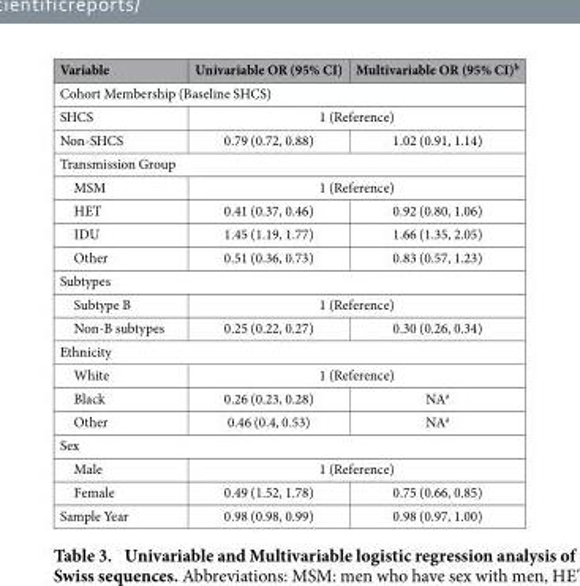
<table><thead><tr><td>Variable</td><td>Univariable OR (95% CI)</td><td>Multivariable OR (95% CI)<sup>b</sup></td></tr></thead><tbody><tr><td colspan="3">Cohort Membership (Baseline SHCS)</td></tr><tr><td>SHCS</td><td colspan="2">1 (Reference)</td></tr><tr><td>Non-SHCS</td><td>0.79 (0.72, 0.88)</td><td>1.02 (0.91, 1.14)</td></tr><tr><td colspan="3">Transmission Group</td></tr><tr><td>MSM</td><td colspan="2">1 (Reference)</td></tr><tr><td>HET</td><td>0.41 (0.37, 0.46)</td><td>0.92 (0.80, 1.06)</td></tr><tr><td>IDU</td><td>1.45 (1.19, 1.77)</td><td>1.66 (1.35, 2.05)</td></tr><tr><td>Other</td><td>0.51 (0.36, 0.73)</td><td>0.83 (0.57, 1.23)</td></tr><tr><td colspan="3">Subtypes</td></tr><tr><td>Subtype B</td><td colspan="2">1 (Reference)</td></tr><tr><td>Non-B subtypes</td><td>0.25 (0.22, 0.27)</td><td>0.30 (0.26, 0.34)</td></tr><tr><td colspan="3">Ethnicity</td></tr><tr><td>White</td><td colspan="2">1 (Reference)</td></tr><tr><td>Black</td><td>0.26 (0.23, 0.28)</td><td>NA<sup>a</sup></td></tr><tr><td>Other</td><td>0.46 (0.4, 0.53)</td><td>NA<sup>a</sup></td></tr><tr><td colspan="3">Sex</td></tr><tr><td>Male</td><td colspan="2">1 (Reference)</td></tr><tr><td>Female</td><td>0.49 (1.52, 1.78)</td><td>0.75 (0.66, 0.85)</td></tr><tr><td>Sample Year</td><td>0.98 (0.98, 0.99)</td><td>0.98 (0.97, 1.00)</td></tr></tbody></table>